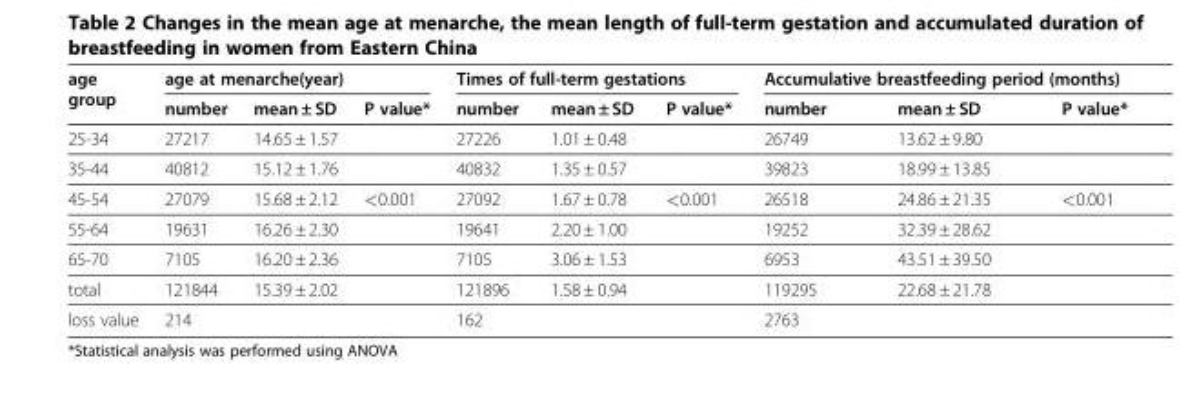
<table><thead><tr><td rowspan="2">age group</td><td colspan="3">age at menarche(year)</td><td colspan="3">Times of full-term gestations</td><td colspan="3">Accumulative breastfeeding period (months)</td></tr><tr><td>number</td><td>mean ± SD</td><td>P value*</td><td>number</td><td>mean ± SD</td><td>P value*</td><td>number</td><td>mean ± SD</td><td>P value*</td></tr></thead><tbody><tr><td>25-34</td><td>27217</td><td>14.65 ± 1.57</td><td></td><td>27226</td><td>1.01 ± 0.48</td><td></td><td>26749</td><td>13.62 ± 9.80</td><td></td></tr><tr><td>35-44</td><td>40812</td><td>15.12 ± 1.76</td><td></td><td>40832</td><td>1.35 ± 0.57</td><td></td><td>39823</td><td>18.99 ± 13.85</td><td></td></tr><tr><td>45-54</td><td>27079</td><td>15.68 ± 2.12</td><td>&lt;0.001</td><td>27092</td><td>1.67 ± 0.78</td><td>&lt;0.001</td><td>26518</td><td>24.86 ± 21.35</td><td>&lt;0.001</td></tr><tr><td>55-64</td><td>19631</td><td>16.26 ± 2.30</td><td></td><td>19641</td><td>2.20 ± 1.00</td><td></td><td>19252</td><td>32.39 ± 28.62</td><td></td></tr><tr><td>65-70</td><td>7105</td><td>16.20 ± 2.36</td><td></td><td>7105</td><td>3.06 ± 1.53</td><td></td><td>6953</td><td>43.51 ± 39.50</td><td></td></tr><tr><td>total</td><td>121844</td><td>15.39 ± 2.02</td><td></td><td>121896</td><td>1.58 ± 0.94</td><td></td><td>119295</td><td>22.68 ± 21.78</td><td></td></tr><tr><td>loss value</td><td>214</td><td></td><td></td><td>162</td><td></td><td></td><td>2763</td><td></td><td></td></tr></tbody></table>